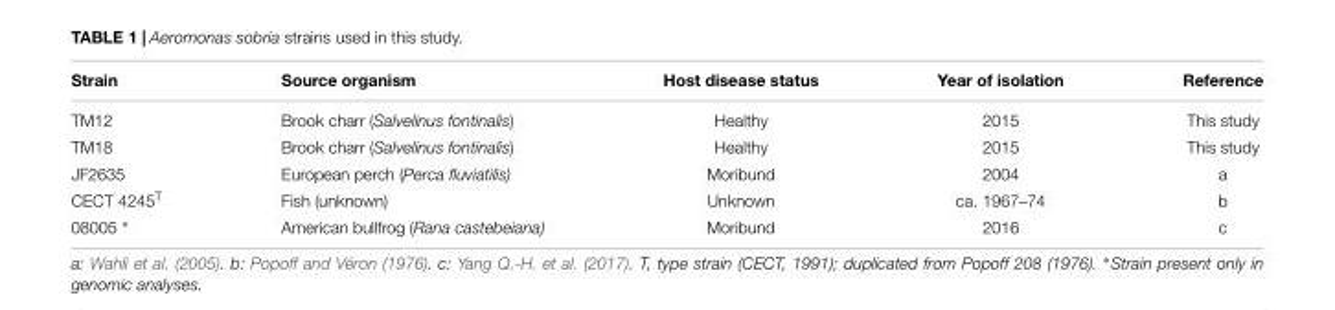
<table><thead><tr><td>Strain</td><td>Source organism</td><td>Host disease status</td><td>Year of isolation</td><td>Reference</td></tr></thead><tbody><tr><td>TM12</td><td>Brook charr (Salvelinus fontinalis)</td><td>Healthy</td><td>2015</td><td>This study</td></tr><tr><td>TM18</td><td>Brook charr (Salvelinus fontinalis)</td><td>Healthy</td><td>2015</td><td>This study</td></tr><tr><td>JF2635</td><td>European perch (Perca fluviatilis)</td><td>Moribund</td><td>2004</td><td>a</td></tr><tr><td>CECT 4245<sup>T</sup></td><td>Fish (unknown)</td><td>Unknown</td><td>ca. 1967–74</td><td>b</td></tr><tr><td>08005 ∗</td><td>American bullfrog (Rana castebeiana)</td><td>Moribund</td><td>2016</td><td>c</td></tr></tbody></table>